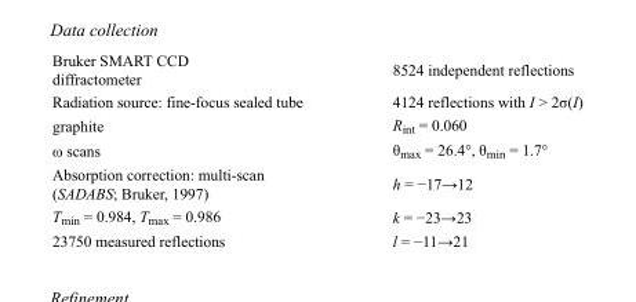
<table><tbody><tr><td>Bruker SMART CCD diffractometer</td><td>8524 independent reflections</td></tr><tr><td>Radiation source: fine-focus sealed tube</td><td>4124 reflections with I &gt; 2σ(I)</td></tr><tr><td>graphite</td><td>R<sub>int</sub> = 0.060</td></tr><tr><td>ω scans</td><td>θ<sub>max</sub> = 26.4°, θ<sub>min</sub> = 1.7°</td></tr><tr><td>Absorption correction: multi-scan (SADABS; Bruker, 1997)</td><td>h = −17→12</td></tr><tr><td>T<sub>min</sub> = 0.984, T<sub>max</sub> = 0.986</td><td>k = −23→23</td></tr><tr><td>23750 measured reflections</td><td>l = −11→21</td></tr></tbody></table>